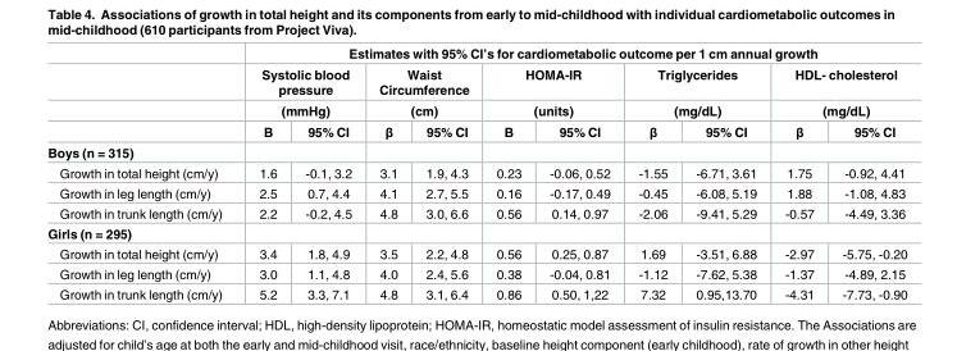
<table><thead><tr><td rowspan="4"></td><td colspan="10">Estimates with 95% CI’s for cardiometabolic outcome per 1 cm annual growth</td></tr><tr><td rowspan="2" colspan="2">Systolic blood pressure (mmHg)</td><td rowspan="2" colspan="2">Waist Circumference (cm)</td><td rowspan="2" colspan="2">HOMA-IR (units)</td><td rowspan="2" colspan="2">Triglycerides (mg/dL)</td><td rowspan="2" colspan="2">HDL- cholesterol (mg/dL)</td></tr><tr></tr><tr><td>Β</td><td>95% CI</td><td>β</td><td>95% CI</td><td>Β</td><td>95% CI</td><td>β</td><td>95% CI</td><td>β</td><td>95% CI</td></tr></thead><tbody><tr><td colspan="11">Boys (n = 315)</td></tr><tr><td>Growth in total height (cm/y)</td><td>1.6</td><td>-0.1, 3.2</td><td>3.1</td><td>1.9, 4.3</td><td>0.23</td><td>-0.06, 0.52</td><td>-1.55</td><td>-6.71, 3.61</td><td>1.75</td><td>-0.92, 4.41</td></tr><tr><td>Growth in leg length (cm/y)</td><td>2.5</td><td>0.7, 4.4</td><td>4.1</td><td>2.7, 5.5</td><td>0.16</td><td>-0.17, 0.49</td><td>-0.45</td><td>-6.08, 5.19</td><td>1.88</td><td>-1.08, 4.83</td></tr><tr><td>Growth in trunk length (cm/y)</td><td>2.2</td><td>-0.2, 4.5</td><td>4.8</td><td>3.0, 6.6</td><td>0.56</td><td>0.14, 0.97</td><td>-2.06</td><td>-9.41, 5.29</td><td>-0.57</td><td>-4.49, 3.36</td></tr><tr><td colspan="11">Girls (n = 295)</td></tr><tr><td>Growth in total height (cm/y)</td><td>3.4</td><td>1.8, 4.9</td><td>3.5</td><td>2.2, 4.8</td><td>0.56</td><td>0.25, 0.87</td><td>1.69</td><td>-3.51, 6.88</td><td>-2.97</td><td>-5.75, -0.20</td></tr><tr><td>Growth in leg length (cm/y)</td><td>3.0</td><td>1.1, 4.8</td><td>4.0</td><td>2.4, 5.6</td><td>0.38</td><td>-0.04, 0.81</td><td>-1.12</td><td>-7.62, 5.38</td><td>-1.37</td><td>-4.89, 2.15</td></tr><tr><td>Growth in trunk length (cm/y)</td><td>5.2</td><td>3.3, 7.1</td><td>4.8</td><td>3.1, 6.4</td><td>0.86</td><td>0.50, 1,22</td><td>7.32</td><td>0.95,13.70</td><td>-4.31</td><td>-7.73, -0.90</td></tr></tbody></table>